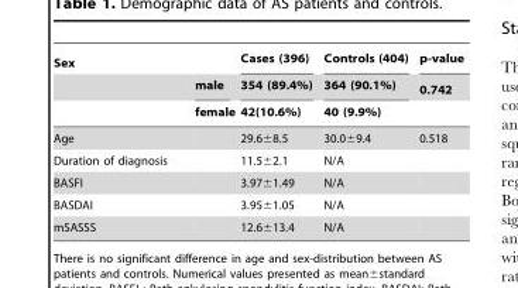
<table><thead><tr><td rowspan="3">Sex</td><td rowspan="3">male female</td><td rowspan="3">Cases (396) 354 (89.4%) 42(10.6%)</td><td rowspan="3">Controls (404) 364 (90.1%) 40 (9.9%)</td><td rowspan="3">p-value 0.742</td></tr><tr></tr><tr></tr></thead><tbody><tr><td>Age</td><td></td><td>29.6±8.5</td><td>30.0±9.4</td><td>0.518</td></tr><tr><td>Duration of diagnosis</td><td></td><td>11.5±2.1</td><td>N/A</td><td></td></tr><tr><td>BASFI</td><td></td><td>3.97±1.49</td><td>N/A</td><td></td></tr><tr><td>BASDAI</td><td></td><td>3.95±1.05</td><td>N/A</td><td></td></tr><tr><td>mSASSS</td><td></td><td>12.6±13.4</td><td>N/A</td><td></td></tr></tbody></table>